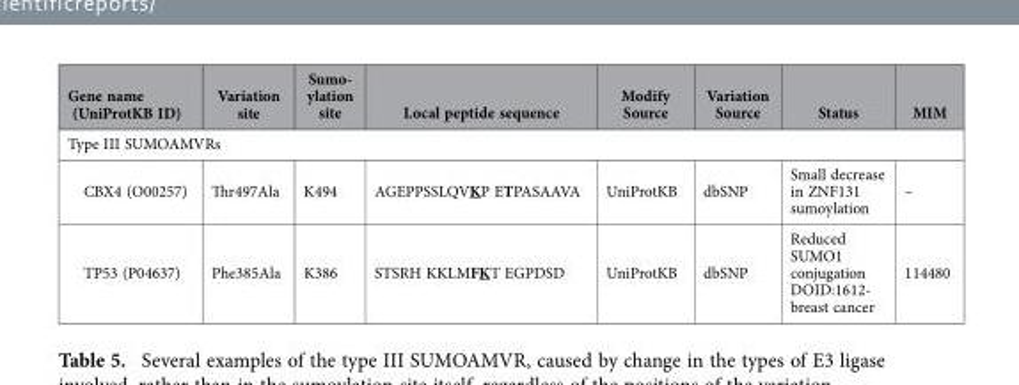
<table><thead><tr><td>Gene name (UniProtKB ID)</td><td>Variation site</td><td>Sumo- ylation site</td><td>Local peptide sequence</td><td>Modify Source</td><td>Variation Source</td><td>Status</td><td>MIM</td></tr></thead><tbody><tr><td colspan="8">Type III SUMOAMVRs</td></tr><tr><td>CBX4 (O00257)</td><td>Thr497Ala</td><td>K494</td><td>AGEPPSSLQVKP ETPASAAVA</td><td>UniProtKB</td><td>dbSNP</td><td>Small decrease in ZNF131 sumoylation</td><td>–</td></tr><tr><td>TP53 (P04637)</td><td>Phe385Ala</td><td>K386</td><td>STSRH KKLMFKT EGPDSD</td><td>UniProtKB</td><td>dbSNP</td><td>Reduced SUMO1 conjugation DOID:1612- breast cancer</td><td>114480</td></tr></tbody></table>